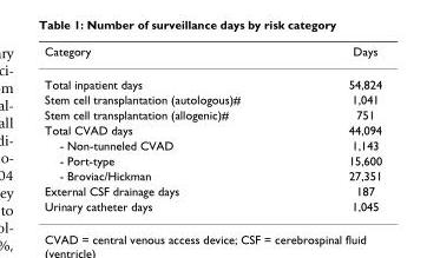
<table><thead><tr><td>Category</td><td>Days</td></tr></thead><tbody><tr><td>Total inpatient days</td><td>54,824</td></tr><tr><td>Stem cell transplantation (autologous)#</td><td>1,041</td></tr><tr><td>Stem cell transplantation (allogenic)#</td><td>751</td></tr><tr><td>Total CVAD days</td><td>44,094</td></tr><tr><td>- Non-tunneled CVAD</td><td>1,143</td></tr><tr><td>- Port-type</td><td>15,600</td></tr><tr><td>- Broviac/Hickman</td><td>27,351</td></tr><tr><td>External CSF drainage days</td><td>187</td></tr><tr><td>Urinary catheter days</td><td>1,045</td></tr></tbody></table>